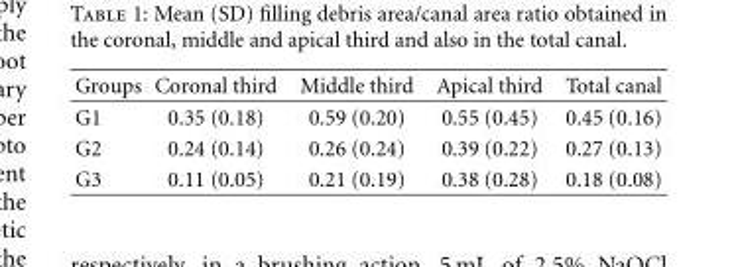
<table><thead><tr><td>Groups</td><td>Coronal third</td><td>Middle third</td><td>Apical third</td><td>Total canal</td></tr></thead><tbody><tr><td>G1</td><td>0.35 (0.18)</td><td>0.59 (0.20)</td><td>0.55 (0.45)</td><td>0.45 (0.16)</td></tr><tr><td>G2</td><td>0.24 (0.14)</td><td>0.26 (0.24)</td><td>0.39 (0.22)</td><td>0.27 (0.13)</td></tr><tr><td>G3</td><td>0.11 (0.05)</td><td>0.21 (0.19)</td><td>0.38 (0.28)</td><td>0.18 (0.08)</td></tr></tbody></table>